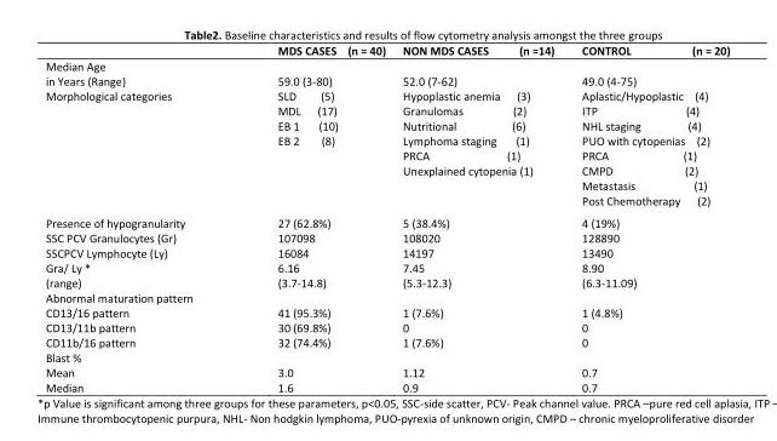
<table><thead><tr><td></td><td>MDS CASES (n = 40)</td><td>NON MDS CASES (n =14)</td><td>CONTROL (n = 20)</td></tr></thead><tbody><tr><td>Median Age in Years (Range)</td><td>59.0 (3-80)</td><td>52.0 (7-62)</td><td>49.0 (4-75)</td></tr><tr><td>Morphological categories</td><td>SLD (5) MDL (17) EB 1 (10) EB 2 (8)</td><td>Hypoplastic anemia (3) Granulomas (2) Nutritional (6) Lymphoma staging (1) PRCA (1) Unexplained cytopenia (1)</td><td>Aplastic/Hypoplastic (4) ITP (4) NHL staging (4) PUO with cytopenias (2) PRCA (1) CMPD (2) Metastasis (1) Post Chemotherapy (2)</td></tr><tr><td>Presence of hypogranularity</td><td>27 (62.8%)</td><td>5 (38.4%)</td><td>4 (19%)</td></tr><tr><td>SSC PCV Granulocytes (Gr)</td><td>107098</td><td>108020</td><td>128890</td></tr><tr><td>SSCPCV Lymphocyte (Ly)</td><td>16084</td><td>14197</td><td>13490</td></tr><tr><td>Gra/ Ly * (range)</td><td>6.16 (3.7-14.8)</td><td>7.45 (5.3-12.3)</td><td>8.90 (6.3-11.09)</td></tr><tr><td>Abnormal maturation pattern CD13/16 pattern CD13/11b pattern CD11b/16 pattern</td><td>41 (95.3%) 30 (69.8%) 32 (74.4%)</td><td>1 (7.6%) 0 1 (7.6%)</td><td>1 (4.8%) 0 0</td></tr><tr><td>Blast % Mean Median</td><td>3.0 1.6</td><td>1.12 0.9</td><td>0.7 0.7</td></tr></tbody></table>